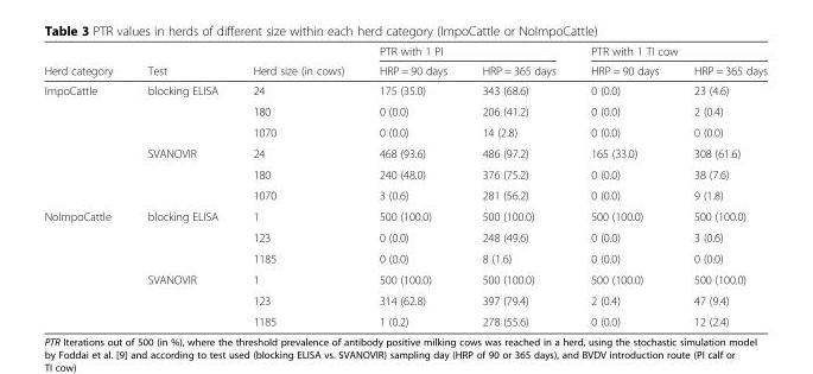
<table><thead><tr><td rowspan="2">Herd category</td><td rowspan="2">Test</td><td rowspan="2">Herd size (in cows)</td><td colspan="2">PTR with 1 PI</td><td colspan="2">PTR with 1 TI cow</td></tr><tr><td>HRP = 90 days</td><td>HRP = 365 days</td><td>HRP = 90 days</td><td>HRP = 365 days</td></tr></thead><tbody><tr><td rowspan="6">ImpoCattle</td><td>blocking ELISA</td><td>24</td><td>175 (35.0)</td><td>343 (68.6)</td><td>0 (0.0)</td><td>23 (4.6)</td></tr><tr><td></td><td>180</td><td>0 (0.0)</td><td>206 (41.2)</td><td>0 (0.0)</td><td>2 (0.4)</td></tr><tr><td></td><td>1070</td><td>0 (0.0)</td><td>14 (2.8)</td><td>0 (0.0)</td><td>0 (0.0)</td></tr><tr><td>SVANOVIR</td><td>24</td><td>468 (93.6)</td><td>486 (97.2)</td><td>165 (33.0)</td><td>308 (61.6)</td></tr><tr><td></td><td>180</td><td>240 (48.0)</td><td>376 (75.2)</td><td>0 (0.0)</td><td>38 (7.6)</td></tr><tr><td></td><td>1070</td><td>3 (0.6)</td><td>281 (56.2)</td><td>0 (0.0)</td><td>9 (1.8)</td></tr><tr><td rowspan="6">NoImpoCattle</td><td>blocking ELISA</td><td>1</td><td>500 (100.0)</td><td>500 (100.0)</td><td>500 (100.0)</td><td>500 (100.0)</td></tr><tr><td></td><td>123</td><td>0 (0.0)</td><td>248 (49.6)</td><td>0 (0.0)</td><td>3 (0.6)</td></tr><tr><td></td><td>1185</td><td>0 (0.0)</td><td>8 (1.6)</td><td>0 (0.0)</td><td>0 (0.0)</td></tr><tr><td>SVANOVIR</td><td>1</td><td>500 (100.0)</td><td>500 (100.0)</td><td>500 (100.0)</td><td>500 (100.0)</td></tr><tr><td></td><td>123</td><td>314 (62.8)</td><td>397 (79.4)</td><td>2 (0.4)</td><td>47 (9.4)</td></tr><tr><td></td><td>1185</td><td>1 (0.2)</td><td>278 (55.6)</td><td>0 (0.0)</td><td>12 (2.4)</td></tr></tbody></table>